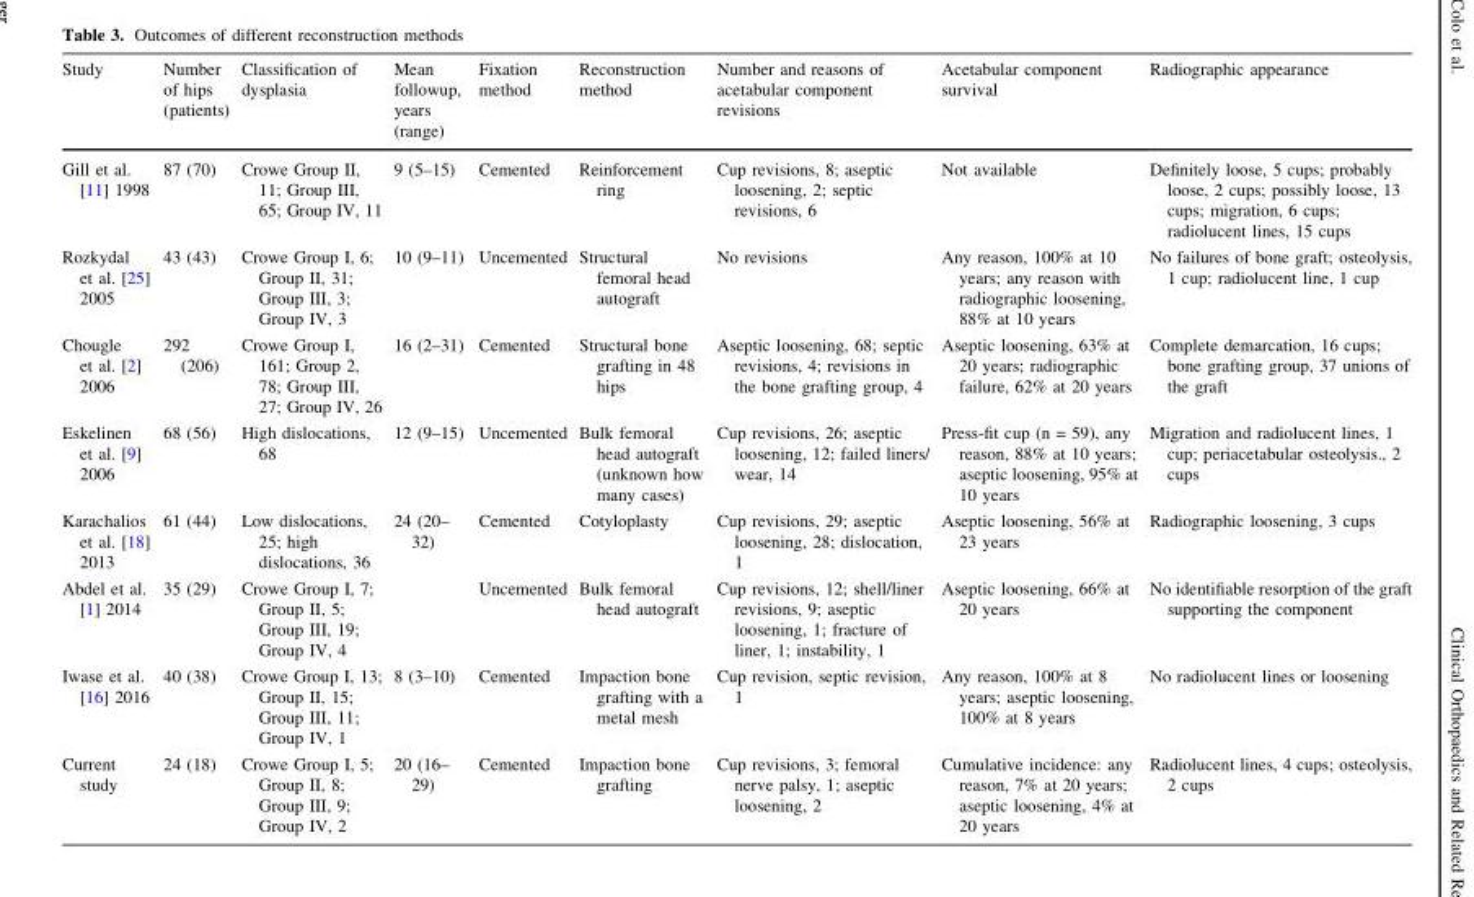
<table><thead><tr><td>Study</td><td>Number of hips (patients)</td><td>Classification of dysplasia</td><td>Mean followup, years (range)</td><td>Fixation method</td><td>Reconstruction method</td><td>Number and reasons of acetabular component revisions</td><td>Acetabular component survival</td><td>Radiographic appearance</td></tr></thead><tbody><tr><td>Gill et al. [11] 1998</td><td>87 (70)</td><td>Crowe Group II, 11; Group III, 65; Group IV, 11</td><td>9 (5–15)</td><td>Cemented</td><td>Reinforcement ring</td><td>Cup revisions, 8; aseptic loosening, 2; septic revisions, 6</td><td>Not available</td><td>Definitely loose, 5 cups; probably loose, 2 cups; possibly loose, 13 cups; migration, 6 cups; radiolucent lines, 15 cups</td></tr><tr><td>Rozkydal et al. [25] 2005</td><td>43 (43)</td><td>Crowe Group I, 6; Group II, 31; Group III, 3; Group IV, 3</td><td>10 (9–11)</td><td>Uncemented</td><td>Structural femoral head autograft</td><td>No revisions</td><td>Any reason, 100% at 10 years; any reason with radiographic loosening, 88% at 10 years</td><td>No failures of bone graft; osteolysis, 1 cup; radiolucent line, 1 cup</td></tr><tr><td>Chougle et al. [2] 2006</td><td>292 (206)</td><td>Crowe Group I, 161; Group 2, 78; Group III, 27; Group IV, 26</td><td>16 (2–31)</td><td>Cemented</td><td>Structural bone grafting in 48 hips</td><td>Aseptic loosening, 68; septic revisions, 4; revisions in the bone grafting group, 4</td><td>Aseptic loosening, 63% at 20 years; radiographic failure, 62% at 20 years</td><td>Complete demarcation, 16 cups; bone grafting group, 37 unions of the graft</td></tr><tr><td>Eskelinen et al. [9] 2006</td><td>68 (56)</td><td>High dislocations, 68</td><td>12 (9–15)</td><td>Uncemented</td><td>Bulk femoral head autograft (unknown how many cases)</td><td>Cup revisions, 26; aseptic loosening, 12; failed liners/ wear, 14</td><td>Press-fit cup (n = 59), any reason, 88% at 10 years; aseptic loosening, 95% at 10 years</td><td>Migration and radiolucent lines, 1 cup; periacetabular osteolysis., 2 cups</td></tr><tr><td>Karachalios et al. [18] 2013</td><td>61 (44)</td><td>Low dislocations, 25; high dislocations, 36</td><td>24 (20– 32)</td><td>Cemented</td><td>Cotyloplasty</td><td>Cup revisions, 29; aseptic loosening, 28; dislocation, 1</td><td>Aseptic loosening, 56% at 23 years</td><td>Radiographic loosening, 3 cups</td></tr><tr><td>Abdel et al. [1] 2014</td><td>35 (29)</td><td>Crowe Group I, 7; Group II, 5; Group III, 19; Group IV, 4</td><td></td><td>Uncemented</td><td>Bulk femoral head autograft</td><td>Cup revisions, 12; shell/liner revisions, 9; aseptic loosening, 1; fracture of liner, 1; instability, 1</td><td>Aseptic loosening, 66% at 20 years</td><td>No identifiable resorption of the graft supporting the component</td></tr><tr><td>Iwase et al. [16] 2016</td><td>40 (38)</td><td>Crowe Group I, 13; Group II, 15; Group III, 11; Group IV, 1</td><td>8 (3–10)</td><td>Cemented</td><td>Impaction bone grafting with a metal mesh</td><td>Cup revision, septic revision, 1</td><td>Any reason, 100% at 8 years; aseptic loosening, 100% at 8 years</td><td>No radiolucent lines or loosening</td></tr><tr><td>Current study</td><td>24 (18)</td><td>Crowe Group I, 5; Group II, 8; Group III, 9; Group IV, 2</td><td>20 (16– 29)</td><td>Cemented</td><td>Impaction bone grafting</td><td>Cup revisions, 3; femoral nerve palsy, 1; aseptic loosening, 2</td><td>Cumulative incidence: any reason, 7% at 20 years; aseptic loosening, 4% at 20 years</td><td>Radiolucent lines, 4 cups; osteolysis, 2 cups</td></tr></tbody></table>